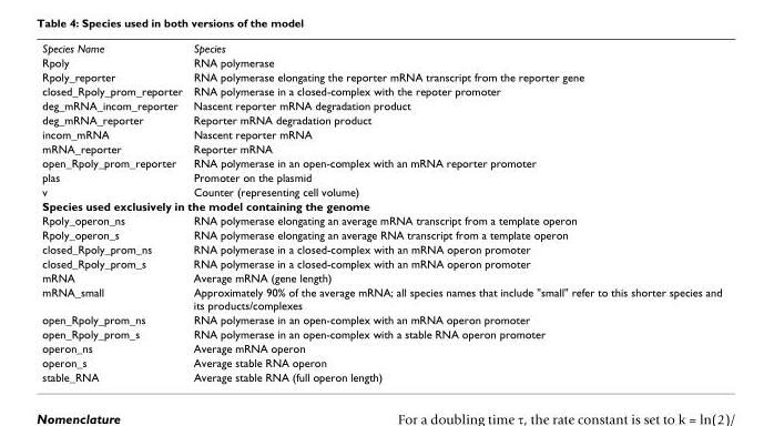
<table><tbody><tr><td>Species Name</td><td>Species</td></tr><tr><td>Rpoly</td><td>RNA polymerase</td></tr><tr><td>Rpoly_reporter</td><td>RNA polymerase elongating the reporter mRNA transcript from the reporter gene</td></tr><tr><td>closed_Rpoly_prom_reporter</td><td>RNA polymerase in a closed-complex with the repoter promoter</td></tr><tr><td>deg_mRNA_incom_reporter</td><td>Nascent reporter mRNA degradation product</td></tr><tr><td>deg_mRNA_reporter</td><td>Reporter mRNA degradation product</td></tr><tr><td>incom_mRNA</td><td>Nascent reporter mRNA</td></tr><tr><td>mRNA_reporter</td><td>Reporter mRNA</td></tr><tr><td>open_Rpoly_prom_reporter</td><td>RNA polymerase in an open-complex with an mRNA reporter promoter</td></tr><tr><td>plas</td><td>Promoter on the plasmid</td></tr><tr><td>v</td><td>Counter (representing cell volume)</td></tr><tr><td colspan="2">Species used exclusively in the model containing the genome</td></tr><tr><td>Rpoly_operon_ns</td><td>RNA polymerase elongating an average mRNA transcript from a template operon</td></tr><tr><td>Rpoly_operon_s</td><td>RNA polymerase elongating an average RNA transcript from a template operon</td></tr><tr><td>closed_Rpoly_prom_ns</td><td>RNA polymerase in a closed-complex with an mRNA operon promoter</td></tr><tr><td>closed_Rpoly_prom_s</td><td>RNA polymerase in a closed-complex with an mRNA operon promoter</td></tr><tr><td>mRNA</td><td>Average mRNA (gene length)</td></tr><tr><td>mRNA_small</td><td>Approximately 90% of the average mRNA; all species names that include &quot;small&quot; refer to this shorter species and its products/complexes</td></tr><tr><td>open_Rpoly_prom_ns</td><td>RNA polymerase in an open-complex with an mRNA operon promoter</td></tr><tr><td>open_Rpoly_prom_s</td><td>RNA polymerase in an open-complex with a stable RNA operon promoter</td></tr><tr><td>operon_ns</td><td>Average mRNA operon</td></tr><tr><td>operon_s</td><td>Average stable RNA operon</td></tr><tr><td>stable_RNA</td><td>Average stable RNA (full operon length)</td></tr></tbody></table>